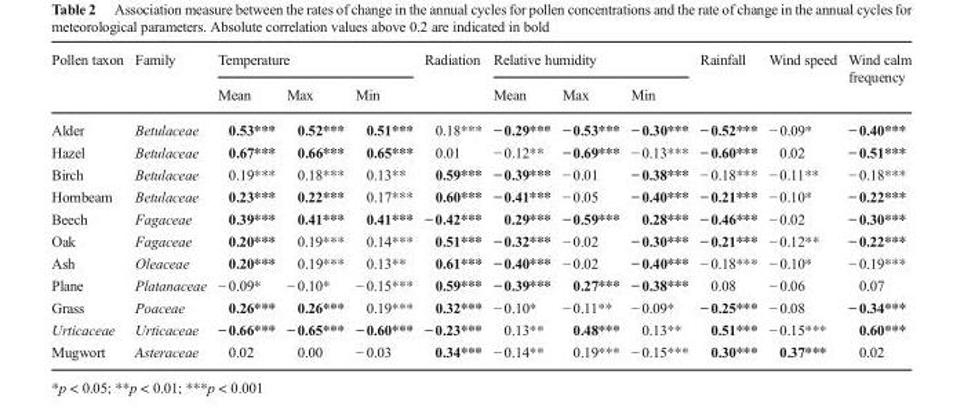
<table><thead><tr><td rowspan="2">Pollen taxon</td><td rowspan="2">Family</td><td colspan="3">Temperature</td><td rowspan="2">Radiation</td><td colspan="3">Relative humidity</td><td rowspan="2">Rainfall</td><td rowspan="2">Wind speed</td><td rowspan="2">Wind calm frequency</td></tr><tr><td>Mean</td><td>Max</td><td>Min</td><td>Mean</td><td>Max</td><td>Min</td></tr></thead><tbody><tr><td>Alder</td><td>Betulaceae</td><td>0.53***</td><td>0.52***</td><td>0.51***</td><td>0.18***</td><td>− 0.29***</td><td>− 0.53***</td><td>− 0.30***</td><td>− 0.52***</td><td>− 0.09*</td><td>− 0.40***</td></tr><tr><td>Hazel</td><td>Betulaceae</td><td>0.67***</td><td>0.66***</td><td>0.65***</td><td>0.01</td><td>− 0.12**</td><td>− 0.69***</td><td>− 0.13***</td><td>− 0.60***</td><td>0.02</td><td>− 0.51***</td></tr><tr><td>Birch</td><td>Betulaceae</td><td>0.19***</td><td>0.18***</td><td>0.13**</td><td>0.59***</td><td>− 0.39***</td><td>− 0.01</td><td>− 0.38***</td><td>− 0.18***</td><td>− 0.11**</td><td>− 0.18***</td></tr><tr><td>Hornbeam</td><td>Betulaceae</td><td>0.23***</td><td>0.22***</td><td>0.17***</td><td>0.60***</td><td>− 0.41***</td><td>− 0.05</td><td>− 0.40***</td><td>− 0.21***</td><td>− 0.10*</td><td>− 0.22***</td></tr><tr><td>Beech</td><td>Fagaceae</td><td>0.39***</td><td>0.41***</td><td>0.41***</td><td>− 0.42***</td><td>0.29***</td><td>− 0.59***</td><td>0.28***</td><td>− 0.46***</td><td>− 0.02</td><td>− 0.30***</td></tr><tr><td>Oak</td><td>Fagaceae</td><td>0.20***</td><td>0.19***</td><td>0.14***</td><td>0.51***</td><td>− 0.32***</td><td>− 0.02</td><td>− 0.30***</td><td>− 0.21***</td><td>− 0.12**</td><td>− 0.22***</td></tr><tr><td>Ash</td><td>Oleaceae</td><td>0.20***</td><td>0.19***</td><td>0.13**</td><td>0.61***</td><td>− 0.40***</td><td>− 0.02</td><td>− 0.40***</td><td>− 0.18***</td><td>− 0.10*</td><td>− 0.19***</td></tr><tr><td>Plane</td><td>Platanaceae</td><td>− 0.09*</td><td>− 0.10*</td><td>− 0.15***</td><td>0.59***</td><td>− 0.39***</td><td>0.27***</td><td>− 0.38***</td><td>0.08</td><td>− 0.06</td><td>0.07</td></tr><tr><td>Grass</td><td>Poaceae</td><td>0.26***</td><td>0.26***</td><td>0.19***</td><td>0.32***</td><td>− 0.10*</td><td>− 0.11**</td><td>− 0.09*</td><td>− 0.25***</td><td>− 0.08</td><td>− 0.34***</td></tr><tr><td>Urticaceae</td><td>Urticaceae</td><td>− 0.66***</td><td>− 0.65***</td><td>− 0.60***</td><td>− 0.23***</td><td>0.13**</td><td>0.48***</td><td>0.13**</td><td>0.51***</td><td>− 0.15***</td><td>0.60***</td></tr><tr><td>Mugwort</td><td>Asteraceae</td><td>0.02</td><td>0.00</td><td>− 0.03</td><td>0.34***</td><td>− 0.14**</td><td>0.19***</td><td>− 0.15***</td><td>0.30***</td><td>0.37***</td><td>0.02</td></tr></tbody></table>